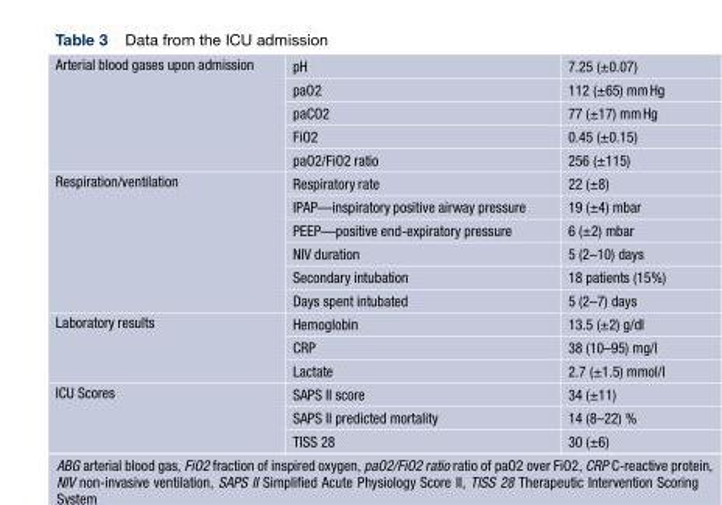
<table><tbody><tr><td rowspan="5">Arterial blood gases upon admission</td><td>pH</td><td>7.25 (±0.07)</td></tr><tr><td>paO2</td><td>112 (±65) mmHg</td></tr><tr><td>paCO2</td><td>77 (±17) mmHg</td></tr><tr><td>FiO2</td><td>0.45 (±0.15)</td></tr><tr><td>paO2/FiO2 ratio</td><td>256 (±115)</td></tr><tr><td rowspan="6">Respiration/ventilation</td><td>Respiratory rate</td><td>22 (±8)</td></tr><tr><td>IPAP—inspiratory positive airway pressure</td><td>19 (±4) mbar</td></tr><tr><td>PEEP—positive end-expiratory pressure</td><td>6 (±2) mbar</td></tr><tr><td>NIV duration</td><td>5 (2–10) days</td></tr><tr><td>Secondary intubation</td><td>18 patients (15%)</td></tr><tr><td>Days spent intubated</td><td>5 (2–7) days</td></tr><tr><td rowspan="3">Laboratory results</td><td>Hemoglobin</td><td>13.5 (±2) g/dl</td></tr><tr><td>CRP</td><td>38 (10–95) mg/l</td></tr><tr><td>Lactate</td><td>2.7 (±1.5) mmol/l</td></tr><tr><td rowspan="3">ICU Scores</td><td>SAPS II score</td><td>34 (±11)</td></tr><tr><td>SAPS II predicted mortality</td><td>14 (8–22) %</td></tr><tr><td>TISS 28</td><td>30 (±6)</td></tr></tbody></table>